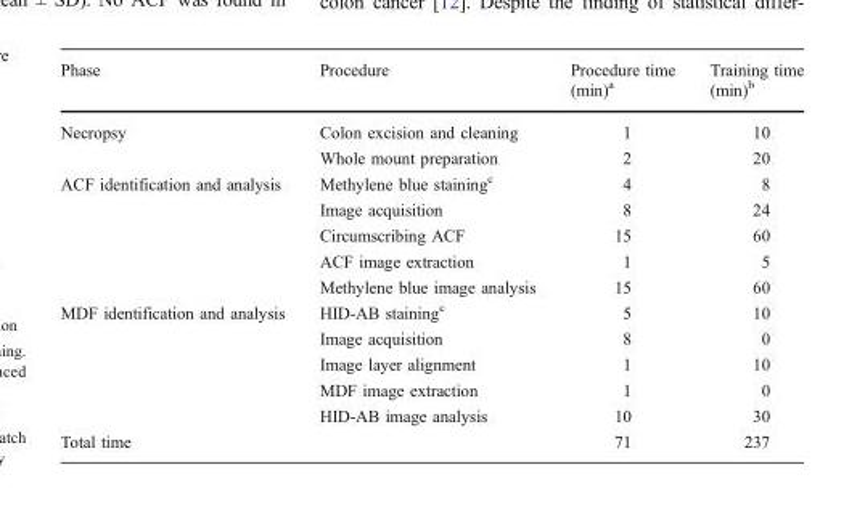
<table><thead><tr><td>Phase</td><td>Procedure</td><td>Procedure time (min)<sup>a</sup></td><td>Training time (min)<sup>b</sup></td></tr></thead><tbody><tr><td rowspan="2">Necropsy</td><td>Colon excision and cleaning</td><td>1</td><td>10</td></tr><tr><td>Whole mount preparation</td><td>2</td><td>20</td></tr><tr><td rowspan="5">ACF identification and analysis</td><td>Methylene blue staining<sup>c</sup></td><td>4</td><td>8</td></tr><tr><td>Image acquisition</td><td>8</td><td>24</td></tr><tr><td>Circumscribing ACF</td><td>15</td><td>60</td></tr><tr><td>ACF image extraction</td><td>1</td><td>5</td></tr><tr><td>Methylene blue image analysis</td><td>15</td><td>60</td></tr><tr><td rowspan="5">MDF identification and analysis</td><td>HID-AB staining<sup>c</sup></td><td>5</td><td>10</td></tr><tr><td>Image acquisition</td><td>8</td><td>0</td></tr><tr><td>Image layer alignment</td><td>1</td><td>10</td></tr><tr><td>MDF image extraction</td><td>1</td><td>0</td></tr><tr><td>HID-AB image analysis</td><td>10</td><td>30</td></tr><tr><td>Total time</td><td></td><td>71</td><td>237</td></tr></tbody></table>